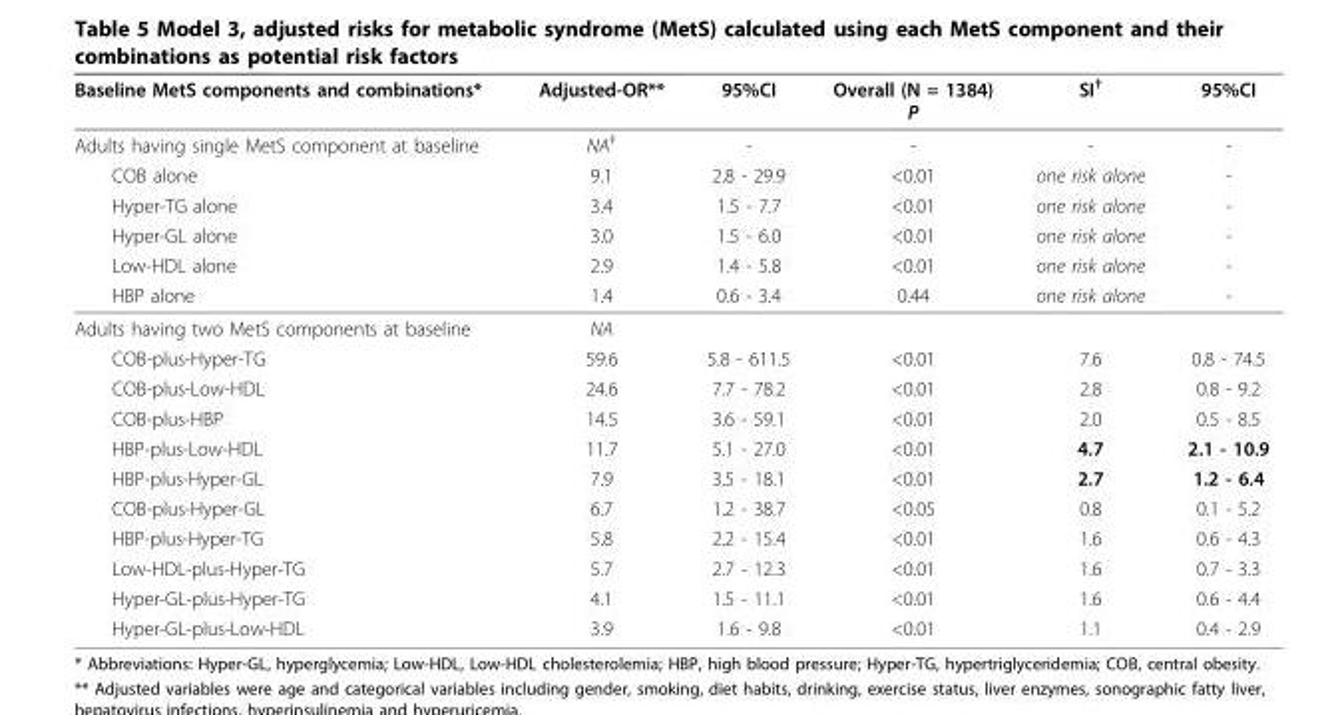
<table><thead><tr><td>Baseline MetS components and combinations*</td><td>Adjusted-OR**</td><td>95%CI</td><td>Overall (N = 1384) P</td><td>SI<sup>†</sup></td><td>95%CI</td></tr></thead><tbody><tr><td>Adults having single MetS component at baseline</td><td>NA<sup>‡</sup></td><td>-</td><td>-</td><td>-</td><td>-</td></tr><tr><td>COB alone</td><td>9.1</td><td>2.8 - 29.9</td><td>&lt;0.01</td><td>one risk alone</td><td>-</td></tr><tr><td>Hyper-TG alone</td><td>3.4</td><td>1.5 - 7.7</td><td>&lt;0.01</td><td>one risk alone</td><td>-</td></tr><tr><td>Hyper-GL alone</td><td>3.0</td><td>1.5 - 6.0</td><td>&lt;0.01</td><td>one risk alone</td><td>-</td></tr><tr><td>Low-HDL alone</td><td>2.9</td><td>1.4 - 5.8</td><td>&lt;0.01</td><td>one risk alone</td><td>-</td></tr><tr><td>HBP alone</td><td>1.4</td><td>0.6 - 3.4</td><td>0.44</td><td>one risk alone</td><td>-</td></tr><tr><td>Adults having two MetS components at baseline</td><td>NA</td><td></td><td></td><td></td><td></td></tr><tr><td>COB-plus-Hyper-TG</td><td>59.6</td><td>5.8 - 611.5</td><td>&lt;0.01</td><td>7.6</td><td>0.8 - 74.5</td></tr><tr><td>COB-plus-Low-HDL</td><td>24.6</td><td>7.7 - 78.2</td><td>&lt;0.01</td><td>2.8</td><td>0.8 - 9.2</td></tr><tr><td>COB-plus-HBP</td><td>14.5</td><td>3.6 - 59.1</td><td>&lt;0.01</td><td>2.0</td><td>0.5 - 8.5</td></tr><tr><td>HBP-plus-Low-HDL</td><td>11.7</td><td>5.1 - 27.0</td><td>&lt;0.01</td><td>4.7</td><td>2.1 - 10.9</td></tr><tr><td>HBP-plus-Hyper-GL</td><td>7.9</td><td>3.5 - 18.1</td><td>&lt;0.01</td><td>2.7</td><td>1.2 - 6.4</td></tr><tr><td>COB-plus-Hyper-GL</td><td>6.7</td><td>1.2 - 38.7</td><td>&lt;0.05</td><td>0.8</td><td>0.1 - 5.2</td></tr><tr><td>HBP-plus-Hyper-TG</td><td>5.8</td><td>2.2 - 15.4</td><td>&lt;0.01</td><td>1.6</td><td>0.6 - 4.3</td></tr><tr><td>Low-HDL-plus-Hyper-TG</td><td>5.7</td><td>2.7 - 12.3</td><td>&lt;0.01</td><td>1.6</td><td>0.7 - 3.3</td></tr><tr><td>Hyper-GL-plus-Hyper-TG</td><td>4.1</td><td>1.5 - 11.1</td><td>&lt;0.01</td><td>1.6</td><td>0.6 - 4.4</td></tr><tr><td>Hyper-GL-plus-Low-HDL</td><td>3.9</td><td>1.6 - 9.8</td><td>&lt;0.01</td><td>1.1</td><td>0.4 - 2.9</td></tr></tbody></table>